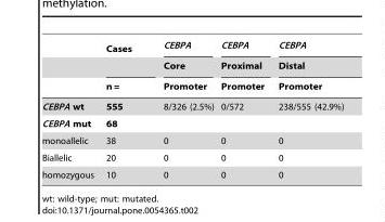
<table><thead><tr><td rowspan="3"></td><td rowspan="3">Cases n =</td><td rowspan="3">CEBPA Core Promoter</td><td rowspan="3">CEBPA Proximal Promoter</td><td rowspan="3">CEBPA Distal Promoter</td></tr><tr></tr><tr></tr></thead><tbody><tr><td>CEBPA wt</td><td>555</td><td>8/326 (2.5%)</td><td>0/572</td><td>238/555 (42.9%)</td></tr><tr><td>CEBPA mut</td><td>68</td><td></td><td></td><td></td></tr><tr><td>monoallelic</td><td>38</td><td>0</td><td>0</td><td>0</td></tr><tr><td>Biallelic</td><td>20</td><td>0</td><td>0</td><td>0</td></tr><tr><td>homozygous</td><td>10</td><td>0</td><td>0</td><td>0</td></tr></tbody></table>